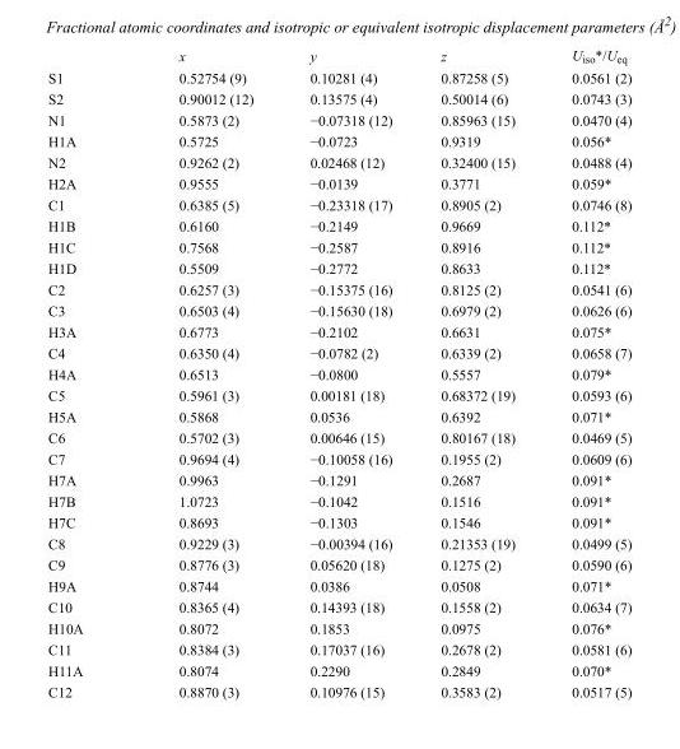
<table><thead><tr><td></td><td>x</td><td>y</td><td>z</td><td>U<sub>iso</sub>*/U<sub>eq</sub></td></tr></thead><tbody><tr><td>S1</td><td>0.52754 (9)</td><td>0.10281 (4)</td><td>0.87258 (5)</td><td>0.0561 (2)</td></tr><tr><td>S2</td><td>0.90012 (12)</td><td>0.13575 (4)</td><td>0.50014 (6)</td><td>0.0743 (3)</td></tr><tr><td>N1</td><td>0.5873 (2)</td><td>−0.07318 (12)</td><td>0.85963 (15)</td><td>0.0470 (4)</td></tr><tr><td>H1A</td><td>0.5725</td><td>−0.0723</td><td>0.9319</td><td>0.056*</td></tr><tr><td>N2</td><td>0.9262 (2)</td><td>0.02468 (12)</td><td>0.32400 (15)</td><td>0.0488 (4)</td></tr><tr><td>H2A</td><td>0.9555</td><td>−0.0139</td><td>0.3771</td><td>0.059*</td></tr><tr><td>C1</td><td>0.6385 (5)</td><td>−0.23318 (17)</td><td>0.8905 (2)</td><td>0.0746 (8)</td></tr><tr><td>H1B</td><td>0.6160</td><td>−0.2149</td><td>0.9669</td><td>0.112*</td></tr><tr><td>H1C</td><td>0.7568</td><td>−0.2587</td><td>0.8916</td><td>0.112*</td></tr><tr><td>H1D</td><td>0.5509</td><td>−0.2772</td><td>0.8633</td><td>0.112*</td></tr><tr><td>C2</td><td>0.6257 (3)</td><td>−0.15375 (16)</td><td>0.8125 (2)</td><td>0.0541 (6)</td></tr><tr><td>C3</td><td>0.6503 (4)</td><td>−0.15630 (18)</td><td>0.6979 (2)</td><td>0.0626 (6)</td></tr><tr><td>H3A</td><td>0.6773</td><td>−0.2102</td><td>0.6631</td><td>0.075*</td></tr><tr><td>C4</td><td>0.6350 (4)</td><td>−0.0782 (2)</td><td>0.6339 (2)</td><td>0.0658 (7)</td></tr><tr><td>H4A</td><td>0.6513</td><td>−0.0800</td><td>0.5557</td><td>0.079*</td></tr><tr><td>C5</td><td>0.5961 (3)</td><td>0.00181 (18)</td><td>0.68372 (19)</td><td>0.0593 (6)</td></tr><tr><td>H5A</td><td>0.5868</td><td>0.0536</td><td>0.6392</td><td>0.071*</td></tr><tr><td>C6</td><td>0.5702 (3)</td><td>0.00646 (15)</td><td>0.80167 (18)</td><td>0.0469 (5)</td></tr><tr><td>C7</td><td>0.9694 (4)</td><td>−0.10058 (16)</td><td>0.1955 (2)</td><td>0.0609 (6)</td></tr><tr><td>H7A</td><td>0.9963</td><td>−0.1291</td><td>0.2687</td><td>0.091*</td></tr><tr><td>H7B</td><td>1.0723</td><td>−0.1042</td><td>0.1516</td><td>0.091*</td></tr><tr><td>H7C</td><td>0.8693</td><td>−0.1303</td><td>0.1546</td><td>0.091*</td></tr><tr><td>C8</td><td>0.9229 (3)</td><td>−0.00394 (16)</td><td>0.21353 (19)</td><td>0.0499 (5)</td></tr><tr><td>C9</td><td>0.8776 (3)</td><td>0.05620 (18)</td><td>0.1275 (2)</td><td>0.0590 (6)</td></tr><tr><td>H9A</td><td>0.8744</td><td>0.0386</td><td>0.0508</td><td>0.071*</td></tr><tr><td>C10</td><td>0.8365 (4)</td><td>0.14393 (18)</td><td>0.1558 (2)</td><td>0.0634 (7)</td></tr><tr><td>H10A</td><td>0.8072</td><td>0.1853</td><td>0.0975</td><td>0.076*</td></tr><tr><td>C11</td><td>0.8384 (3)</td><td>0.17037 (16)</td><td>0.2678 (2)</td><td>0.0581 (6)</td></tr><tr><td>H11A</td><td>0.8074</td><td>0.2290</td><td>0.2849</td><td>0.070*</td></tr><tr><td>C12</td><td>0.8870 (3)</td><td>0.10976 (15)</td><td>0.3583 (2)</td><td>0.0517 (5)</td></tr></tbody></table>